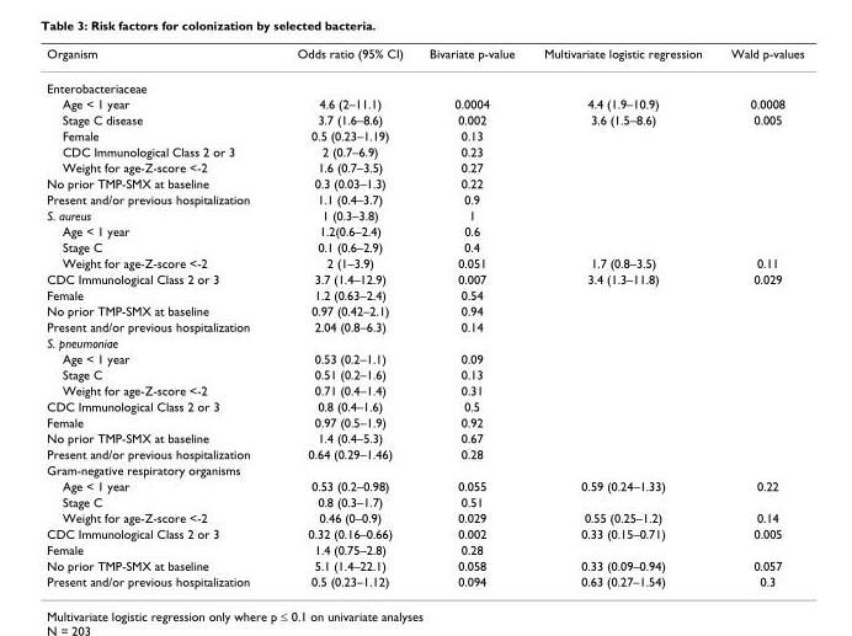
<table><thead><tr><td>Organism</td><td>Odds ratio (95% CI)</td><td>Bivariate p-value</td><td>Multivariate logistic regression</td><td>Wald p-values</td></tr></thead><tbody><tr><td colspan="5">Enterobacteriaceae</td></tr><tr><td>Age &lt; 1 year</td><td>4.6 (2–11.1)</td><td>0.0004</td><td>4.4 (1.9–10.9)</td><td>0.0008</td></tr><tr><td>Stage C disease</td><td>3.7 (1.6–8.6)</td><td>0.002</td><td>3.6 (1.5–8.6)</td><td>0.005</td></tr><tr><td>Female</td><td>0.5 (0.23–1.19)</td><td>0.13</td><td></td><td></td></tr><tr><td>CDC Immunological Class 2 or 3</td><td>2 (0.7–6.9)</td><td>0.23</td><td></td><td></td></tr><tr><td>Weight for age-Z-score &lt;-2</td><td>1.6 (0.7–3.5)</td><td>0.27</td><td></td><td></td></tr><tr><td>No prior TMP-SMX at baseline</td><td>0.3 (0.03–1.3)</td><td>0.22</td><td></td><td></td></tr><tr><td>Present and/or previous hospitalization</td><td>1.1 (0.4–3.7)</td><td>0.9</td><td></td><td></td></tr><tr><td>S. aureus</td><td>1 (0.3–3.8)</td><td>1</td><td></td><td></td></tr><tr><td>Age &lt; 1 year</td><td>1.2(0.6–2.4)</td><td>0.6</td><td></td><td></td></tr><tr><td>Stage C</td><td>0.1 (0.6–2.9)</td><td>0.4</td><td></td><td></td></tr><tr><td>Weight for age-Z-score &lt;-2</td><td>2 (1–3.9)</td><td>0.051</td><td>1.7 (0.8–3.5)</td><td>0.11</td></tr><tr><td>CDC Immunological Class 2 or 3</td><td>3.7 (1.4–12.9)</td><td>0.007</td><td>3.4 (1.3–11.8)</td><td>0.029</td></tr><tr><td>Female</td><td>1.2 (0.63–2.4)</td><td>0.54</td><td></td><td></td></tr><tr><td>No prior TMP-SMX at baseline</td><td>0.97 (0.42–2.1)</td><td>0.94</td><td></td><td></td></tr><tr><td>Present and/or previous hospitalization</td><td>2.04 (0.8–6.3)</td><td>0.14</td><td></td><td></td></tr><tr><td colspan="5">S. pneumoniae</td></tr><tr><td>Age &lt; 1 year</td><td>0.53 (0.2–1.1)</td><td>0.09</td><td></td><td></td></tr><tr><td>Stage C</td><td>0.51 (0.2–1.6)</td><td>0.13</td><td></td><td></td></tr><tr><td>Weight for age-Z-score &lt;-2</td><td>0.71 (0.4–1.4)</td><td>0.31</td><td></td><td></td></tr><tr><td>CDC Immunological Class 2 or 3</td><td>0.8 (0.4–1.6)</td><td>0.5</td><td></td><td></td></tr><tr><td>Female</td><td>0.97 (0.5–1.9)</td><td>0.92</td><td></td><td></td></tr><tr><td>No prior TMP-SMX at baseline</td><td>1.4 (0.4–5.3)</td><td>0.67</td><td></td><td></td></tr><tr><td>Present and/or previous hospitalization</td><td>0.64 (0.29–1.46)</td><td>0.28</td><td></td><td></td></tr><tr><td colspan="5">Gram-negative respiratory organisms</td></tr><tr><td>Age &lt; 1 year</td><td>0.53 (0.2–0.98)</td><td>0.055</td><td>0.59 (0.24–1.33)</td><td>0.22</td></tr><tr><td>Stage C</td><td>0.8 (0.3–1.7)</td><td>0.51</td><td></td><td></td></tr><tr><td>Weight for age-Z-score &lt;-2</td><td>0.46 (0–0.9)</td><td>0.029</td><td>0.55 (0.25–1.2)</td><td>0.14</td></tr><tr><td>CDC Immunological Class 2 or 3</td><td>0.32 (0.16–0.66)</td><td>0.002</td><td>0.33 (0.15–0.71)</td><td>0.005</td></tr><tr><td>Female</td><td>1.4 (0.75–2.8)</td><td>0.28</td><td></td><td></td></tr><tr><td>No prior TMP-SMX at baseline</td><td>5.1 (1.4–22.1)</td><td>0.058</td><td>0.33 (0.09–0.94)</td><td>0.057</td></tr><tr><td>Present and/or previous hospitalization</td><td>0.5 (0.23–1.12)</td><td>0.094</td><td>0.63 (0.27–1.54)</td><td>0.3</td></tr></tbody></table>